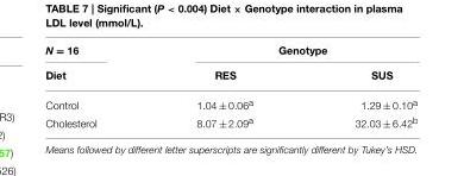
<table><thead><tr><td rowspan="2">N = 16 Diet</td><td colspan="2">Genotype</td></tr><tr><td>RES</td><td>SUS</td></tr></thead><tbody><tr><td>Control</td><td>1.04 ± 0.06<sup>a</sup></td><td>1.29 ± 0.10<sup>a</sup></td></tr><tr><td>Cholesterol</td><td>8.07 ± 2.09<sup>a</sup></td><td>32.03 ± 6.42<sup>b</sup></td></tr></tbody></table>